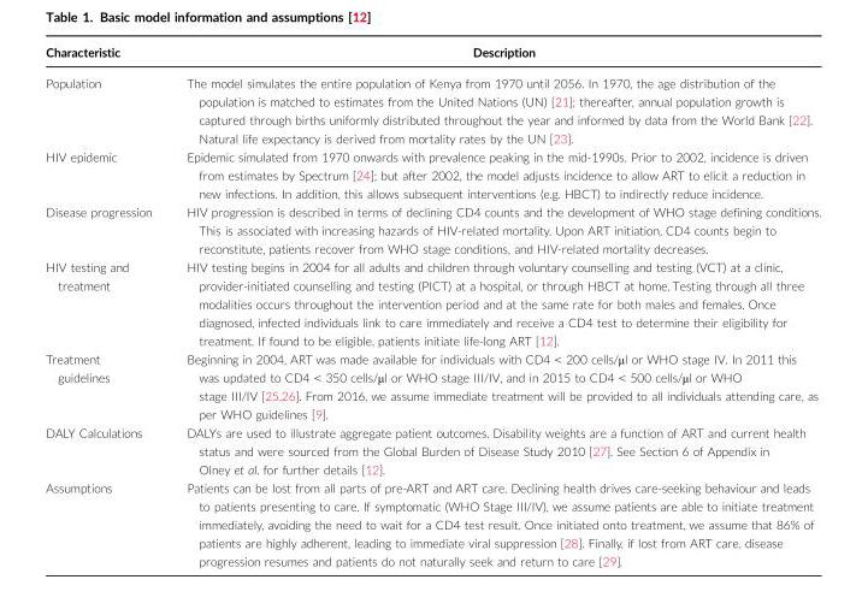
<table><thead><tr><td>Characteristic</td><td>Description</td></tr></thead><tbody><tr><td>Population</td><td>The model simulates the entire population of Kenya from 1970 until 2056. In 1970, the age distribution of the population is matched to estimates from the United Nations (UN) [21]; thereafter, annual population growth is captured through births uniformly distributed throughout the year and informed by data from the World Bank [22]. Natural life expectancy is derived from mortality rates by the UN [23].</td></tr><tr><td>HIV epidemic</td><td>Epidemic simulated from 1970 onwards with prevalence peaking in the mid-1990s. Prior to 2002, incidence is driven from estimates by Spectrum [24]; but after 2002, the model adjusts incidence to allow ART to elicit a reduction in new infections. In addition, this allows subsequent interventions (e.g. HBCT) to indirectly reduce incidence.</td></tr><tr><td>Disease progression</td><td>HIV progression is described in terms of declining CD4 counts and the development of WHO stage defining conditions. This is associated with increasing hazards of HIV-related mortality. Upon ART initiation, CD4 counts begin to reconstitute, patients recover from WHO stage conditions, and HIV-related mortality decreases.</td></tr><tr><td>HIV testing and treatment</td><td>HIV testing begins in 2004 for all adults and children through voluntary counselling and testing (VCT) at a clinic, provider-initiated counselling and testing (PICT) at a hospital, or through HBCT at home. Testing through all three modalities occurs throughout the intervention period and at the same rate for both males and females. Once diagnosed, infected individuals link to care immediately and receive a CD4 test to determine their eligibility for treatment. If found to be eligible, patients initiate life-long ART [12].</td></tr><tr><td>Treatment guidelines</td><td>Beginning in 2004, ART was made available for individuals with CD4 &lt; 200 cells/ll or WHO stage IV. In 2011 this was updated to CD4 &lt; 350 cells/ll or WHO stage III/IV, and in 2015 to CD4 &lt; 500 cells/ll or WHO stage III/IV [25,26]. From 2016, we assume immediate treatment will be provided to all individuals attending care, as per WHO guidelines [9].</td></tr><tr><td>DALY Calculations</td><td>DALYs are used to illustrate aggregate patient outcomes. Disability weights are a function of ART and current health status and were sourced from the Global Burden of Disease Study 2010 [27]. See Section 6 of Appendix in Olney et al. for further details [12].</td></tr><tr><td>Assumptions</td><td>Patients can be lost from all parts of pre-ART and ART care. Declining health drives care-seeking behaviour and leads to patients presenting to care. If symptomatic (WHO Stage III/IV), we assume patients are able to initiate treatment immediately, avoiding the need to wait for a CD4 test result. Once initiated onto treatment, we assume that 86% of patients are highly adherent, leading to immediate viral suppression [28]. Finally, if lost from ART care, disease progression resumes and patients do not naturally seek and return to care [29].</td></tr></tbody></table>